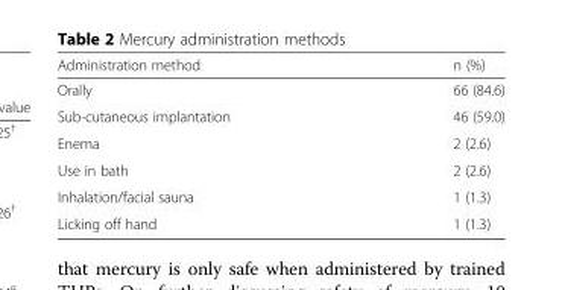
<table><thead><tr><td>Administration method</td><td>n (%)</td></tr></thead><tbody><tr><td>Orally</td><td>66 (84.6)</td></tr><tr><td>Sub-cutaneous implantation</td><td>46 (59.0)</td></tr><tr><td>Enema</td><td>2 (2.6)</td></tr><tr><td>Use in bath</td><td>2 (2.6)</td></tr><tr><td>Inhalation/facial sauna</td><td>1 (1.3)</td></tr><tr><td>Licking off hand</td><td>1 (1.3)</td></tr></tbody></table>